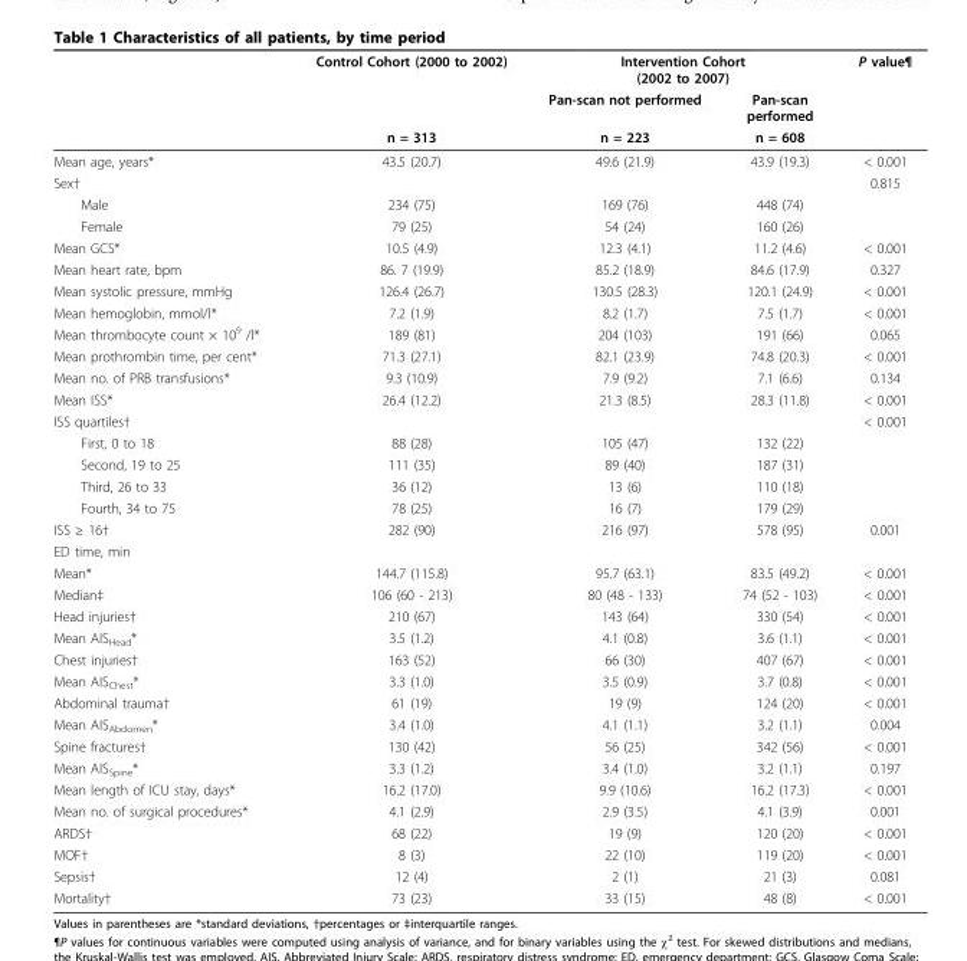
<table><thead><tr><td rowspan="3"></td><td rowspan="3">Control Cohort (2000 to 2002) n = 313</td><td colspan="2">Intervention Cohort (2002 to 2007)</td><td rowspan="3">P value¶</td></tr><tr><td rowspan="2">Pan-scan not performed n = 223</td><td rowspan="2">Pan-scan performed n = 608</td></tr><tr></tr></thead><tbody><tr><td>Mean age, years*</td><td>43.5 (20.7)</td><td>49.6 (21.9)</td><td>43.9 (19.3)</td><td>&lt; 0.001</td></tr><tr><td>Sex†</td><td></td><td></td><td></td><td>0.815</td></tr><tr><td>Male</td><td>234 (75)</td><td>169 (76)</td><td>448 (74)</td><td></td></tr><tr><td>Female</td><td>79 (25)</td><td>54 (24)</td><td>160 (26)</td><td></td></tr><tr><td>Mean GCS*</td><td>10.5 (4.9)</td><td>12.3 (4.1)</td><td>11.2 (4.6)</td><td>&lt; 0.001</td></tr><tr><td>Mean heart rate, bpm</td><td>86. 7 (19.9)</td><td>85.2 (18.9)</td><td>84.6 (17.9)</td><td>0.327</td></tr><tr><td>Mean systolic pressure, mmHg</td><td>126.4 (26.7)</td><td>130.5 (28.3)</td><td>120.1 (24.9)</td><td>&lt; 0.001</td></tr><tr><td>Mean hemoglobin, mmol/l*</td><td>7.2 (1.9)</td><td>8.2 (1.7)</td><td>7.5 (1.7)</td><td>&lt; 0.001</td></tr><tr><td>Mean thrombocyte count × 10<sup>9</sup> /l*</td><td>189 (81)</td><td>204 (103)</td><td>191 (66)</td><td>0.065</td></tr><tr><td>Mean prothrombin time, per cent*</td><td>71.3 (27.1)</td><td>82.1 (23.9)</td><td>74.8 (20.3)</td><td>&lt; 0.001</td></tr><tr><td>Mean no. of PRB transfusions*</td><td>9.3 (10.9)</td><td>7.9 (9.2)</td><td>7.1 (6.6)</td><td>0.134</td></tr><tr><td>Mean ISS*</td><td>26.4 (12.2)</td><td>21.3 (8.5)</td><td>28.3 (11.8)</td><td>&lt; 0.001</td></tr><tr><td>ISS quartiles†</td><td></td><td></td><td></td><td>&lt; 0.001</td></tr><tr><td>First, 0 to 18</td><td>88 (28)</td><td>105 (47)</td><td>132 (22)</td><td></td></tr><tr><td>Second, 19 to 25</td><td>111 (35)</td><td>89 (40)</td><td>187 (31)</td><td></td></tr><tr><td>Third, 26 to 33</td><td>36 (12)</td><td>13 (6)</td><td>110 (18)</td><td></td></tr><tr><td>Fourth, 34 to 75</td><td>78 (25)</td><td>16 (7)</td><td>179 (29)</td><td></td></tr><tr><td>ISS ≥ 16†</td><td>282 (90)</td><td>216 (97)</td><td>578 (95)</td><td>0.001</td></tr><tr><td colspan="5">ED time, min</td></tr><tr><td>Mean*</td><td>144.7 (115.8)</td><td>95.7 (63.1)</td><td>83.5 (49.2)</td><td>&lt; 0.001</td></tr><tr><td>Median‡</td><td>106 (60 - 213)</td><td>80 (48 - 133)</td><td>74 (52 - 103)</td><td>&lt; 0.001</td></tr><tr><td>Head injuries†</td><td>210 (67)</td><td>143 (64)</td><td>330 (54)</td><td>&lt; 0.001</td></tr><tr><td>Mean AIS<sub>Head</sub>*</td><td>3.5 (1.2)</td><td>4.1 (0.8)</td><td>3.6 (1.1)</td><td>&lt; 0.001</td></tr><tr><td>Chest injuries†</td><td>163 (52)</td><td>66 (30)</td><td>407 (67)</td><td>&lt; 0.001</td></tr><tr><td>Mean AIS<sub>Chest</sub>*</td><td>3.3 (1.0)</td><td>3.5 (0.9)</td><td>3.7 (0.8)</td><td>&lt; 0.001</td></tr><tr><td>Abdominal trauma†</td><td>61 (19)</td><td>19 (9)</td><td>124 (20)</td><td>&lt; 0.001</td></tr><tr><td>Mean AIS<sub>Abdomen</sub>*</td><td>3.4 (1.0)</td><td>4.1 (1.1)</td><td>3.2 (1.1)</td><td>0.004</td></tr><tr><td>Spine fractures†</td><td>130 (42)</td><td>56 (25)</td><td>342 (56)</td><td>&lt; 0.001</td></tr><tr><td>Mean AIS<sub>Spine</sub>*</td><td>3.3 (1.2)</td><td>3.4 (1.0)</td><td>3.2 (1.1)</td><td>0.197</td></tr><tr><td>Mean length of ICU stay, days*</td><td>16.2 (17.0)</td><td>9.9 (10.6)</td><td>16.2 (17.3)</td><td>&lt; 0.001</td></tr><tr><td>Mean no. of surgical procedures*</td><td>4.1 (2.9)</td><td>2.9 (3.5)</td><td>4.1 (3.9)</td><td>0.001</td></tr><tr><td>ARDS†</td><td>68 (22)</td><td>19 (9)</td><td>120 (20)</td><td>&lt; 0.001</td></tr><tr><td>MOF†</td><td>8 (3)</td><td>22 (10)</td><td>119 (20)</td><td>&lt; 0.001</td></tr><tr><td>Sepsis†</td><td>12 (4)</td><td>2 (1)</td><td>21 (3)</td><td>0.081</td></tr><tr><td>Mortality†</td><td>73 (23)</td><td>33 (15)</td><td>48 (8)</td><td>&lt; 0.001</td></tr></tbody></table>